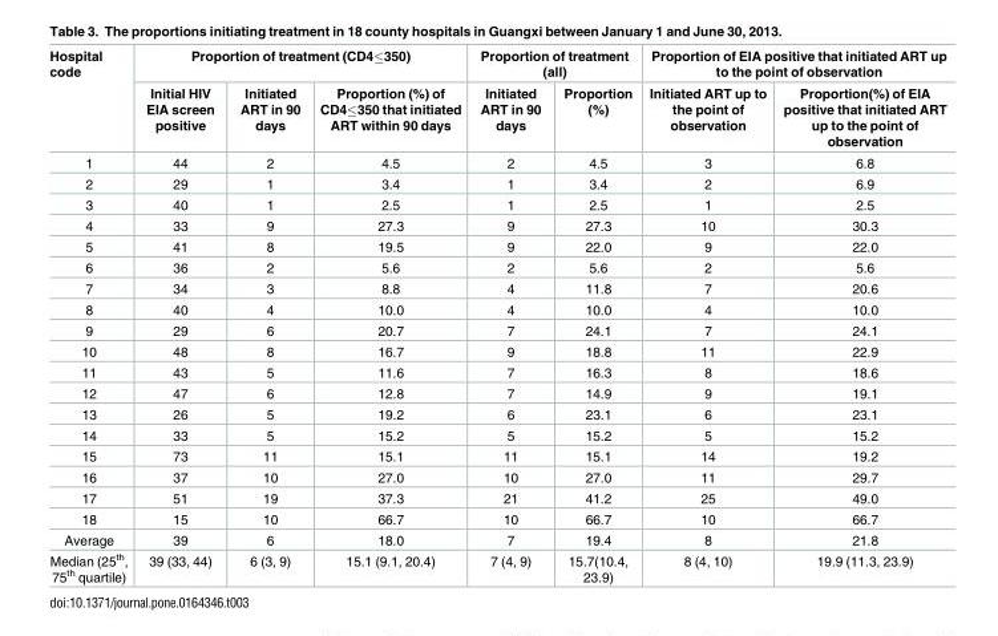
<table><thead><tr><td rowspan="2">Hospital code</td><td colspan="3">Proportion of treatment (CD4≤350)</td><td colspan="2">Proportion of treatment (all)</td><td colspan="2">Proportion of EIA positive that initiated ART up to the point of observation</td></tr><tr><td>Initial HIV EIA screen positive</td><td>Initiated ART in 90 days</td><td>Proportion (%) of CD4≤350 that initiated ART within 90 days</td><td>Initiated ART in 90 days</td><td>Proportion (%)</td><td>Initiated ART up to the point of observation</td><td>Proportion(%) of EIA positive that initiated ART up to the point of observation</td></tr></thead><tbody><tr><td>1</td><td>44</td><td>2</td><td>4.5</td><td>2</td><td>4.5</td><td>3</td><td>6.8</td></tr><tr><td>2</td><td>29</td><td>1</td><td>3.4</td><td>1</td><td>3.4</td><td>2</td><td>6.9</td></tr><tr><td>3</td><td>40</td><td>1</td><td>2.5</td><td>1</td><td>2.5</td><td>1</td><td>2.5</td></tr><tr><td>4</td><td>33</td><td>9</td><td>27.3</td><td>9</td><td>27.3</td><td>10</td><td>30.3</td></tr><tr><td>5</td><td>41</td><td>8</td><td>19.5</td><td>9</td><td>22.0</td><td>9</td><td>22.0</td></tr><tr><td>6</td><td>36</td><td>2</td><td>5.6</td><td>2</td><td>5.6</td><td>2</td><td>5.6</td></tr><tr><td>7</td><td>34</td><td>3</td><td>8.8</td><td>4</td><td>11.8</td><td>7</td><td>20.6</td></tr><tr><td>8</td><td>40</td><td>4</td><td>10.0</td><td>4</td><td>10.0</td><td>4</td><td>10.0</td></tr><tr><td>9</td><td>29</td><td>6</td><td>20.7</td><td>7</td><td>24.1</td><td>7</td><td>24.1</td></tr><tr><td>10</td><td>48</td><td>8</td><td>16.7</td><td>9</td><td>18.8</td><td>11</td><td>22.9</td></tr><tr><td>11</td><td>43</td><td>5</td><td>11.6</td><td>7</td><td>16.3</td><td>8</td><td>18.6</td></tr><tr><td>12</td><td>47</td><td>6</td><td>12.8</td><td>7</td><td>14.9</td><td>9</td><td>19.1</td></tr><tr><td>13</td><td>26</td><td>5</td><td>19.2</td><td>6</td><td>23.1</td><td>6</td><td>23.1</td></tr><tr><td>14</td><td>33</td><td>5</td><td>15.2</td><td>5</td><td>15.2</td><td>5</td><td>15.2</td></tr><tr><td>15</td><td>73</td><td>11</td><td>15.1</td><td>11</td><td>15.1</td><td>14</td><td>19.2</td></tr><tr><td>16</td><td>37</td><td>10</td><td>27.0</td><td>10</td><td>27.0</td><td>11</td><td>29.7</td></tr><tr><td>17</td><td>51</td><td>19</td><td>37.3</td><td>21</td><td>41.2</td><td>25</td><td>49.0</td></tr><tr><td>18</td><td>15</td><td>10</td><td>66.7</td><td>10</td><td>66.7</td><td>10</td><td>66.7</td></tr><tr><td>Average</td><td>39</td><td>6</td><td>18.0</td><td>7</td><td>19.4</td><td>8</td><td>21.8</td></tr><tr><td>Median (25<sup>th</sup>, 75<sup>th</sup> quartile)</td><td>39 (33, 44)</td><td>6 (3, 9)</td><td>15.1 (9.1, 20.4)</td><td>7 (4, 9)</td><td>15.7(10.4, 23.9)</td><td>8 (4, 10)</td><td>19.9 (11.3, 23.9)</td></tr></tbody></table>